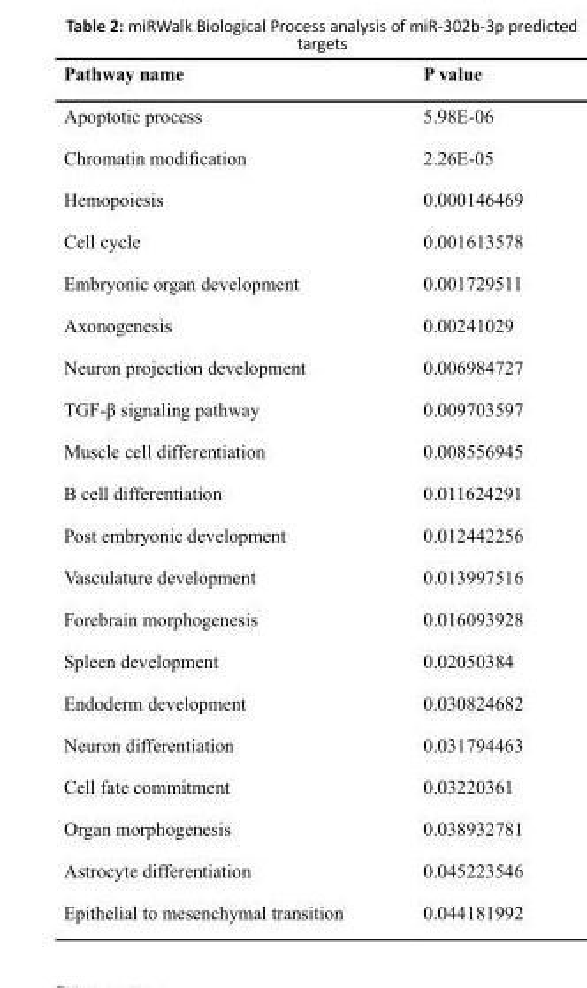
<table><thead><tr><td>Pathway name</td><td>P value</td></tr></thead><tbody><tr><td>Apoptotic process</td><td>5.98E-06</td></tr><tr><td>Chromatin modification</td><td>2.26E-05</td></tr><tr><td>Hemopoiesis</td><td>0.000146469</td></tr><tr><td>Cell cycle</td><td>0.001613578</td></tr><tr><td>Embryonic organ development</td><td>0.001729511</td></tr><tr><td>Axonogenesis</td><td>0.00241029</td></tr><tr><td>Neuron projection development</td><td>0.006984727</td></tr><tr><td>TGF-β signaling pathway</td><td>0.009703597</td></tr><tr><td>Muscle cell differentiation</td><td>0.008556945</td></tr><tr><td>B cell differentiation</td><td>0.011624291</td></tr><tr><td>Post embryonic development</td><td>0.012442256</td></tr><tr><td>Vasculature development</td><td>0.013997516</td></tr><tr><td>Forebrain morphogenesis</td><td>0.016093928</td></tr><tr><td>Spleen development</td><td>0.02050384</td></tr><tr><td>Endoderm development</td><td>0.030824682</td></tr><tr><td>Neuron differentiation</td><td>0.031794463</td></tr><tr><td>Cell fate commitment</td><td>0.03220361</td></tr><tr><td>Organ morphogenesis</td><td>0.038932781</td></tr><tr><td>Astrocyte differentiation</td><td>0.045223546</td></tr><tr><td>Epithelial to mesenchymal transition</td><td>0.044181992</td></tr></tbody></table>